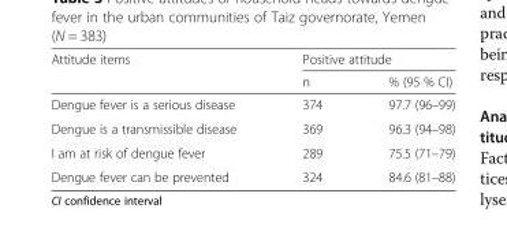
<table><thead><tr><td rowspan="2">Attitude items</td><td colspan="2">Positive attitude</td></tr><tr><td>n</td><td>% (95 % CI)</td></tr></thead><tbody><tr><td>Dengue fever is a serious disease</td><td>374</td><td>97.7 (96–99)</td></tr><tr><td>Dengue is a transmissible disease</td><td>369</td><td>96.3 (94–98)</td></tr><tr><td>I am at risk of dengue fever</td><td>289</td><td>75.5 (71–79)</td></tr><tr><td>Dengue fever can be prevented</td><td>324</td><td>84.6 (81–88)</td></tr></tbody></table>